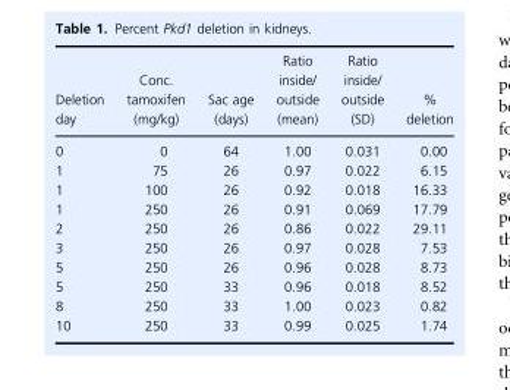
<table><thead><tr><td>Deletion day</td><td>Conc. tamoxifen (mg/kg)</td><td>Sac age (days)</td><td>Ratio inside/ outside (mean)</td><td>Ratio inside/ outside (SD)</td><td>% deletion</td></tr></thead><tbody><tr><td>0</td><td>0</td><td>64</td><td>1.00</td><td>0.031</td><td>0.00</td></tr><tr><td>1</td><td>75</td><td>26</td><td>0.97</td><td>0.022</td><td>6.15</td></tr><tr><td>1</td><td>100</td><td>26</td><td>0.92</td><td>0.018</td><td>16.33</td></tr><tr><td>1</td><td>250</td><td>26</td><td>0.91</td><td>0.069</td><td>17.79</td></tr><tr><td>2</td><td>250</td><td>26</td><td>0.86</td><td>0.022</td><td>29.11</td></tr><tr><td>3</td><td>250</td><td>26</td><td>0.97</td><td>0.028</td><td>7.53</td></tr><tr><td>5</td><td>250</td><td>26</td><td>0.96</td><td>0.028</td><td>8.73</td></tr><tr><td>5</td><td>250</td><td>33</td><td>0.96</td><td>0.018</td><td>8.52</td></tr><tr><td>8</td><td>250</td><td>33</td><td>1.00</td><td>0.023</td><td>0.82</td></tr><tr><td>10</td><td>250</td><td>33</td><td>0.99</td><td>0.025</td><td>1.74</td></tr></tbody></table>